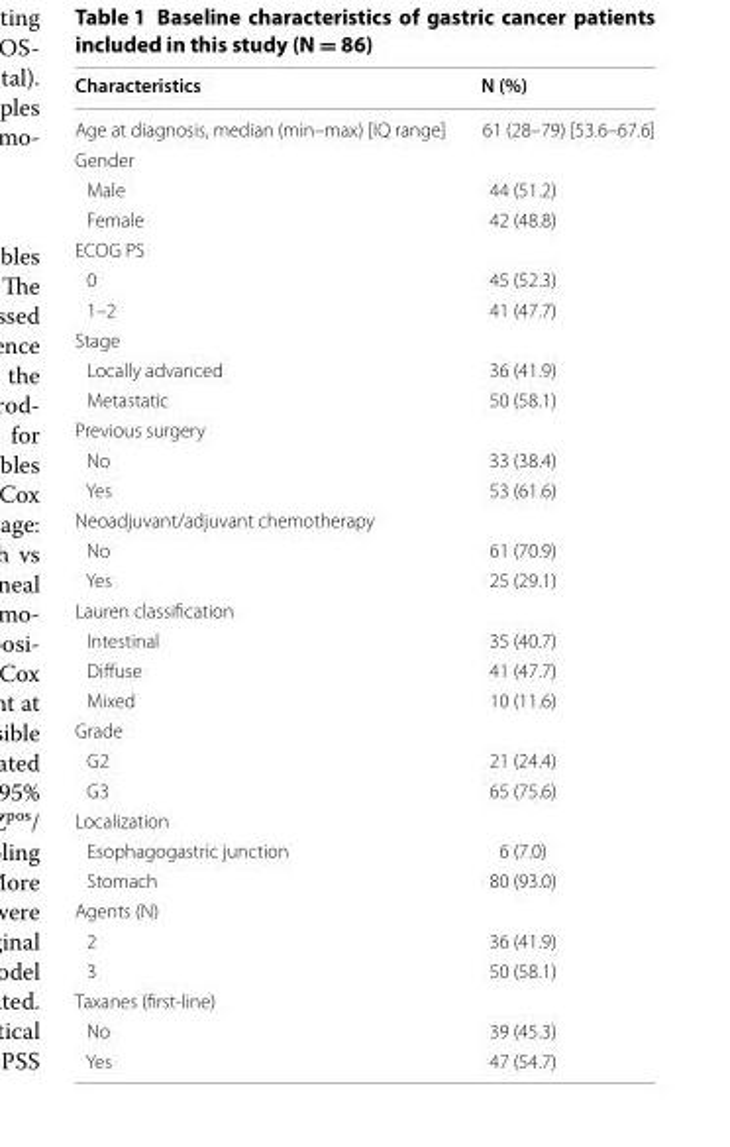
<table><thead><tr><td>Characteristics</td><td>N (%)</td></tr></thead><tbody><tr><td>Age at diagnosis, median (min–max) [IQ range]</td><td>61 (28–79) [53.6–67.6]</td></tr><tr><td colspan="2">Gender</td></tr><tr><td>Male</td><td>44 (51.2)</td></tr><tr><td>Female</td><td>42 (48.8)</td></tr><tr><td colspan="2">ECOG PS</td></tr><tr><td>0</td><td>45 (52.3)</td></tr><tr><td>1–2</td><td>41 (47.7)</td></tr><tr><td colspan="2">Stage</td></tr><tr><td>Locally advanced</td><td>36 (41.9)</td></tr><tr><td>Metastatic</td><td>50 (58.1)</td></tr><tr><td colspan="2">Previous surgery</td></tr><tr><td>No</td><td>33 (38.4)</td></tr><tr><td>Yes</td><td>53 (61.6)</td></tr><tr><td colspan="2">Neoadjuvant/adjuvant chemotherapy</td></tr><tr><td>No</td><td>61 (70.9)</td></tr><tr><td>Yes</td><td>25 (29.1)</td></tr><tr><td colspan="2">Lauren classification</td></tr><tr><td>Intestinal</td><td>35 (40.7)</td></tr><tr><td>Diffuse</td><td>41 (47.7)</td></tr><tr><td>Mixed</td><td>10 (11.6)</td></tr><tr><td colspan="2">Grade</td></tr><tr><td>G2</td><td>21 (24.4)</td></tr><tr><td>G3</td><td>65 (75.6)</td></tr><tr><td colspan="2">Localization</td></tr><tr><td>Esophagogastric junction</td><td>6 (7.0)</td></tr><tr><td>Stomach</td><td>80 (93.0)</td></tr><tr><td colspan="2">Agents (N)</td></tr><tr><td>2</td><td>36 (41.9)</td></tr><tr><td>3</td><td>50 (58.1)</td></tr><tr><td colspan="2">Taxanes (first‑line)</td></tr><tr><td>No</td><td>39 (45.3)</td></tr><tr><td>Yes</td><td>47 (54.7)</td></tr></tbody></table>